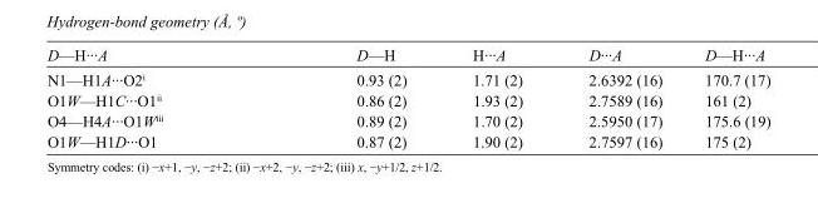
<table><tbody><tr><td>D—H···A</td><td>D—H</td><td>H···A</td><td>D···A</td><td>D—H···A</td></tr><tr><td>N1—H1A···O2<sup>i</sup></td><td>0.93 (2)</td><td>1.71 (2)</td><td>2.6392 (16)</td><td>170.7 (17)</td></tr><tr><td>O1W—H1C···O1<sup>ii</sup></td><td>0.86 (2)</td><td>1.93 (2)</td><td>2.7589 (16)</td><td>161 (2)</td></tr><tr><td>O4—H4A···O1W<sup>iii</sup></td><td>0.89 (2)</td><td>1.70 (2)</td><td>2.5950 (17)</td><td>175.6 (19)</td></tr><tr><td>O1W—H1D···O1</td><td>0.87 (2)</td><td>1.90 (2)</td><td>2.7597 (16)</td><td>175 (2)</td></tr></tbody></table>